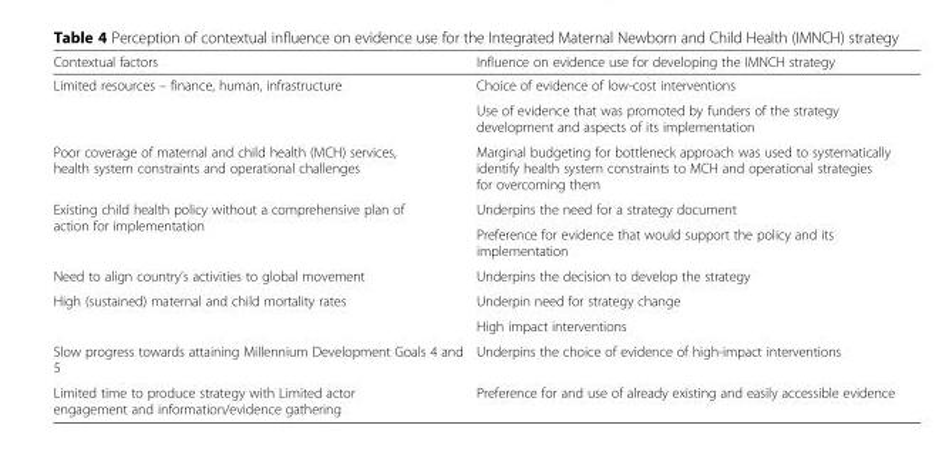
<table><thead><tr><td>Contextual factors</td><td>Influence on evidence use for developing the IMNCH strategy</td></tr></thead><tbody><tr><td rowspan="2">Limited resources – finance, human, infrastructure</td><td>Choice of evidence of low-cost interventions</td></tr><tr><td>Use of evidence that was promoted by funders of the strategy development and aspects of its implementation</td></tr><tr><td>Poor coverage of maternal and child health (MCH) services, health system constraints and operational challenges</td><td>Marginal budgeting for bottleneck approach was used to systematically identify health system constraints to MCH and operational strategies for overcoming them</td></tr><tr><td rowspan="2">Existing child health policy without a comprehensive plan of action for implementation</td><td>Underpins the need for a strategy document</td></tr><tr><td>Preference for evidence that would support the policy and its implementation</td></tr><tr><td>Need to align country’s activities to global movement</td><td>Underpins the decision to develop the strategy</td></tr><tr><td rowspan="2">High (sustained) maternal and child mortality rates</td><td>Underpin need for strategy change</td></tr><tr><td>High impact interventions</td></tr><tr><td>Slow progress towards attaining Millennium Development Goals 4 and 5</td><td>Underpins the choice of evidence of high-impact interventions</td></tr><tr><td>Limited time to produce strategy with Limited actor engagement and information/evidence gathering</td><td>Preference for and use of already existing and easily accessible evidence</td></tr></tbody></table>